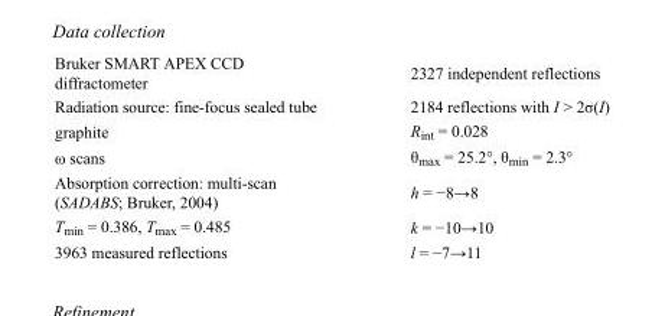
<table><tbody><tr><td>Bruker SMART APEX CCD diffractometer</td><td>2327 independent reflections</td></tr><tr><td>Radiation source: fine-focus sealed tube</td><td>2184 reflections with I &gt; 2σ(I)</td></tr><tr><td>graphite</td><td>R<sub>int</sub> = 0.028</td></tr><tr><td>ω scans</td><td>θ<sub>max</sub> = 25.2°, θ<sub>min</sub> = 2.3°</td></tr><tr><td>Absorption correction: multi-scan (SADABS; Bruker, 2004)</td><td>h = −8→8</td></tr><tr><td>T<sub>min</sub> = 0.386, T<sub>max</sub> = 0.485</td><td>k = −10→10</td></tr><tr><td>3963 measured reflections</td><td>l = −7→11</td></tr></tbody></table>